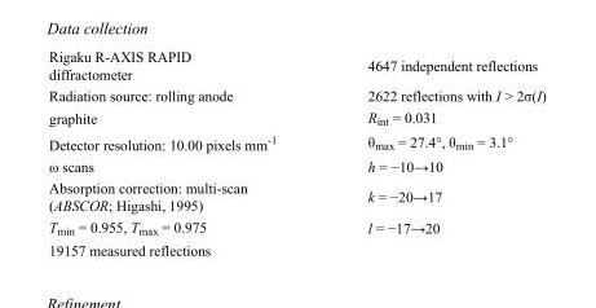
<table><tbody><tr><td>Rigaku R-AXIS RAPID diffractometer</td><td>4647 independent reflections</td></tr><tr><td>Radiation source: rolling anode</td><td>2622 reflections with I &gt; 2σ(I)</td></tr><tr><td>graphite</td><td>R<sub>int</sub> = 0.031</td></tr><tr><td>Detector resolution: 10.00 pixels mm<sup>-1</sup></td><td>θ<sub>max</sub> = 27.4°, θ<sub>min</sub> = 3.1°</td></tr><tr><td>ω scans</td><td>h = −10→10</td></tr><tr><td>Absorption correction: multi-scan (ABSCOR; Higashi, 1995)</td><td>k = −20→17</td></tr><tr><td>T<sub>min</sub> = 0.955, T<sub>max</sub> = 0.975</td><td>l = −17→20</td></tr><tr><td>19157 measured reflections</td><td></td></tr></tbody></table>